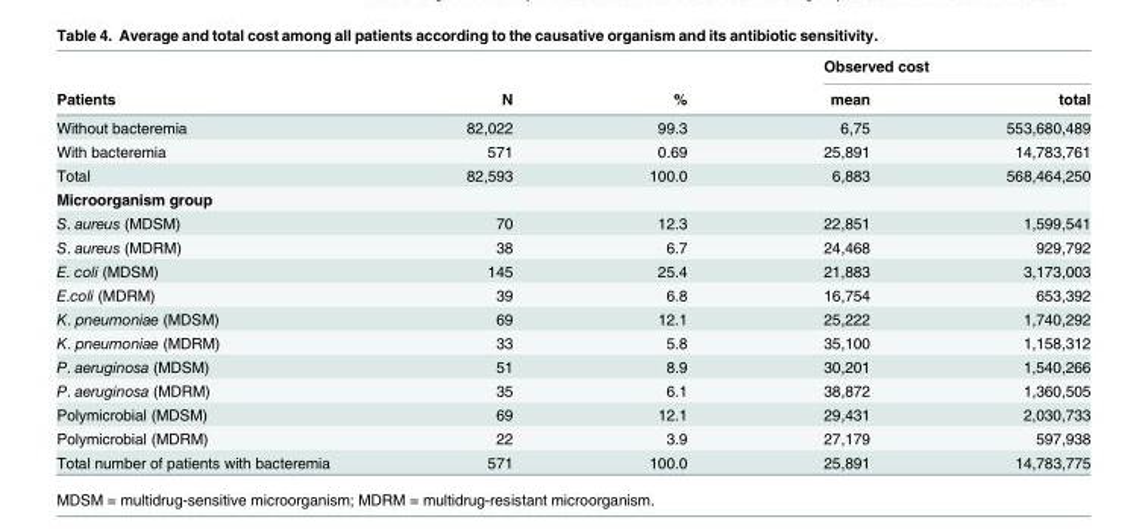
<table><thead><tr><td rowspan="2">Patients</td><td rowspan="2">N</td><td rowspan="2">%</td><td colspan="2">Observed cost</td></tr><tr><td>mean</td><td>total</td></tr></thead><tbody><tr><td>Without bacteremia</td><td>82,022</td><td>99.3</td><td>6,75</td><td>553,680,489</td></tr><tr><td>With bacteremia</td><td>571</td><td>0.69</td><td>25,891</td><td>14,783,761</td></tr><tr><td>Total</td><td>82,593</td><td>100.0</td><td>6,883</td><td>568,464,250</td></tr><tr><td colspan="5">Microorganism group</td></tr><tr><td>S. aureus (MDSM)</td><td>70</td><td>12.3</td><td>22,851</td><td>1,599,541</td></tr><tr><td>S. aureus (MDRM)</td><td>38</td><td>6.7</td><td>24,468</td><td>929,792</td></tr><tr><td>E. coli (MDSM)</td><td>145</td><td>25.4</td><td>21,883</td><td>3,173,003</td></tr><tr><td>E.coli (MDRM)</td><td>39</td><td>6.8</td><td>16,754</td><td>653,392</td></tr><tr><td>K. pneumoniae (MDSM)</td><td>69</td><td>12.1</td><td>25,222</td><td>1,740,292</td></tr><tr><td>K. pneumoniae (MDRM)</td><td>33</td><td>5.8</td><td>35,100</td><td>1,158,312</td></tr><tr><td>P. aeruginosa (MDSM)</td><td>51</td><td>8.9</td><td>30,201</td><td>1,540,266</td></tr><tr><td>P. aeruginosa (MDRM)</td><td>35</td><td>6.1</td><td>38,872</td><td>1,360,505</td></tr><tr><td>Polymicrobial (MDSM)</td><td>69</td><td>12.1</td><td>29,431</td><td>2,030,733</td></tr><tr><td>Polymicrobial (MDRM)</td><td>22</td><td>3.9</td><td>27,179</td><td>597,938</td></tr><tr><td>Total number of patients with bacteremia</td><td>571</td><td>100.0</td><td>25,891</td><td>14,783,775</td></tr></tbody></table>